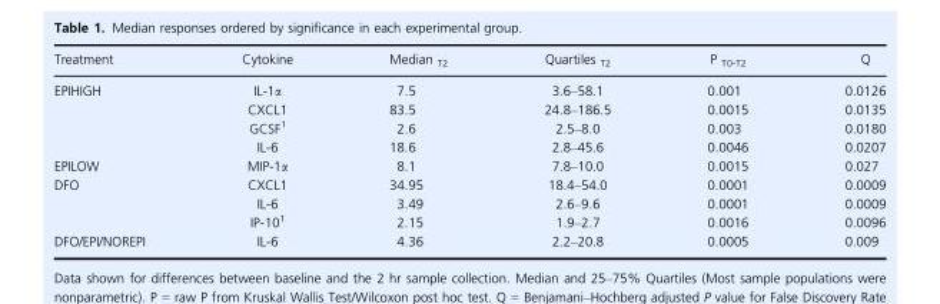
<table><thead><tr><td>Treatment</td><td>Cytokine</td><td>Median <sub>T2</sub></td><td>Quartiles <sub>T2</sub></td><td>P <sub>T0-T2</sub></td><td>Q</td></tr></thead><tbody><tr><td rowspan="4">EPIHIGH</td><td>IL-1α</td><td>7.5</td><td>3.6–58.1</td><td>0.001</td><td>0.0126</td></tr><tr><td>CXCL1</td><td>83.5</td><td>24.8–186.5</td><td>0.0015</td><td>0.0135</td></tr><tr><td>GCSF1</td><td>2.6</td><td>2.5–8.0</td><td>0.003</td><td>0.0180</td></tr><tr><td>IL-6</td><td>18.6</td><td>2.8–45.6</td><td>0.0046</td><td>0.0207</td></tr><tr><td>EPILOW</td><td>MIP-1α</td><td>8.1</td><td>7.8–10.0</td><td>0.0015</td><td>0.027</td></tr><tr><td rowspan="3">DFO</td><td>CXCL1</td><td>34.95</td><td>18.4–54.0</td><td>0.0001</td><td>0.0009</td></tr><tr><td>IL-6</td><td>3.49</td><td>2.6–9.6</td><td>0.0001</td><td>0.0009</td></tr><tr><td>IP-101</td><td>2.15</td><td>1.9–2.7</td><td>0.0016</td><td>0.0096</td></tr><tr><td>DFO/EPI/NOREPI</td><td>IL-6</td><td>4.36</td><td>2.2–20.8</td><td>0.0005</td><td>0.009</td></tr></tbody></table>